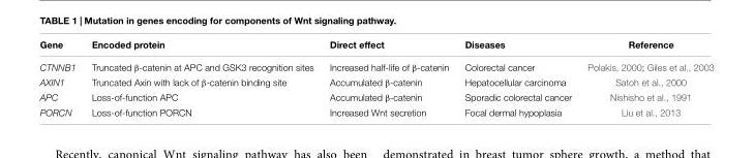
<table><thead><tr><td>Gene</td><td>Encoded protein</td><td>Direct effect</td><td>Diseases</td><td>Reference</td></tr></thead><tbody><tr><td>CTNNB1</td><td>Truncated β-catenin at APC and GSK3 recognition sites</td><td>Increased half-life of β-catenin</td><td>Colorectal cancer</td><td>Polakis, 2000; Giles et al., 2003</td></tr><tr><td>AXIN1</td><td>Truncated Axin with lack of β-catenin binding site</td><td>Accumulated β-catenin</td><td>Hepatocellular carcinoma</td><td>Satoh et al., 2000</td></tr><tr><td>APC</td><td>Loss-of-function APC</td><td>Accumulated β-catenin</td><td>Sporadic colorectal cancer</td><td>Nishisho et al., 1991</td></tr><tr><td>PORCN</td><td>Loss-of-function PORCN</td><td>Increased Wnt secretion</td><td>Focal dermal hypoplasia</td><td>Liu et al., 2013</td></tr></tbody></table>